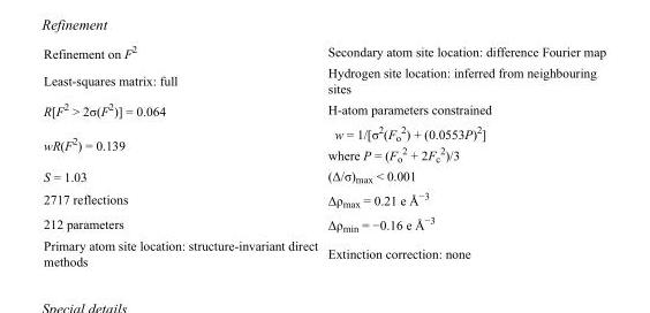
<table><tbody><tr><td>Refinement on F<sup>2</sup></td><td>Secondary atom site location: difference Fourier map</td></tr><tr><td>Least-squares matrix: full</td><td>Hydrogen site location: inferred from neighbouring sites</td></tr><tr><td>R[F<sup>2</sup> &gt; 2σ(F<sup>2</sup>)] = 0.064</td><td>H-atom parameters constrained</td></tr><tr><td>wR(F<sup>2</sup>) = 0.139</td><td>w = 1/[σ<sup>2</sup>(F<sub>o</sub> <sup>2</sup>) + (0.0553P)<sup>2</sup>] where P = (F<sub>o</sub> <sup>2</sup> + 2F<sub>c</sub> <sup>2</sup>)/3</td></tr><tr><td>S = 1.03</td><td>(Δ/σ)<sub>max</sub> &lt; 0.001</td></tr><tr><td>2717 reflections</td><td>Δρ<sub>max</sub> = 0.21 e Å<sup>−3</sup></td></tr><tr><td>212 parameters</td><td>Δρ<sub>min</sub> = −0.16 e Å<sup>−3</sup></td></tr><tr><td>Primary atom site location: structure-invariant direct methods</td><td>Extinction correction: none</td></tr></tbody></table>